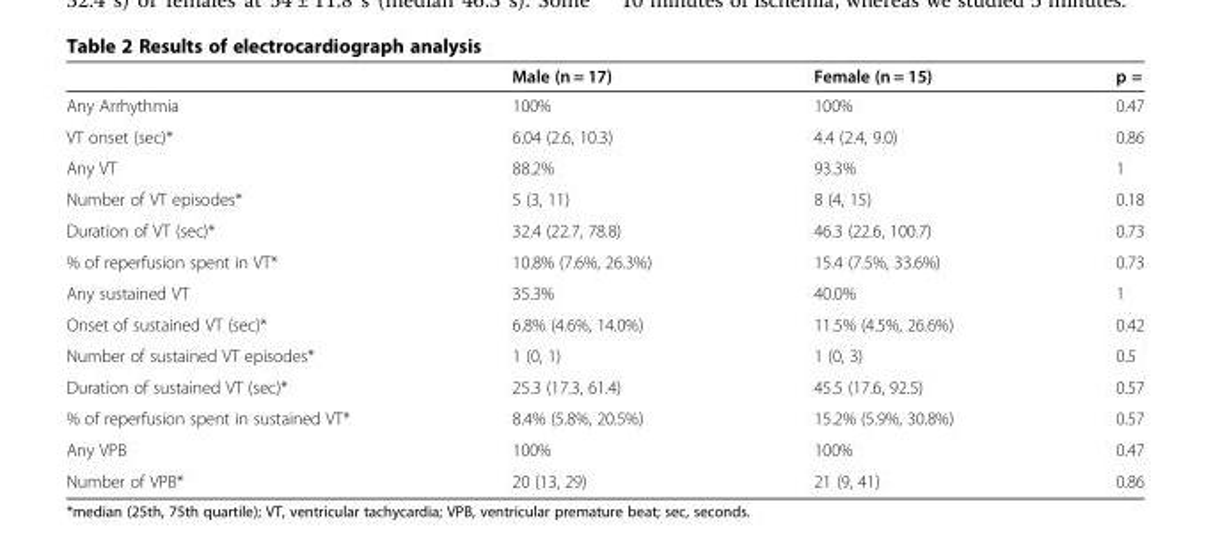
<table><thead><tr><td></td><td>Male (n = 17)</td><td>Female (n = 15)</td><td>p =</td></tr></thead><tbody><tr><td>Any Arrhythmia</td><td>100%</td><td>100%</td><td>0.47</td></tr><tr><td>VT onset (sec)*</td><td>6.04 (2.6, 10.3)</td><td>4.4 (2.4, 9.0)</td><td>0.86</td></tr><tr><td>Any VT</td><td>88.2%</td><td>93.3%</td><td>1</td></tr><tr><td>Number of VT episodes*</td><td>5 (3, 11)</td><td>8 (4, 15)</td><td>0.18</td></tr><tr><td>Duration of VT (sec)*</td><td>32.4 (22.7, 78.8)</td><td>46.3 (22.6, 100.7)</td><td>0.73</td></tr><tr><td>% of reperfusion spent in VT*</td><td>10.8% (7.6%, 26.3%)</td><td>15.4 (7.5%, 33.6%)</td><td>0.73</td></tr><tr><td>Any sustained VT</td><td>35.3%</td><td>40.0%</td><td>1</td></tr><tr><td>Onset of sustained VT (sec)*</td><td>6.8% (4.6%, 14.0%)</td><td>11.5% (4.5%, 26.6%)</td><td>0.42</td></tr><tr><td>Number of sustained VT episodes*</td><td>1 (0, 1)</td><td>1 (0, 3)</td><td>0.5</td></tr><tr><td>Duration of sustained VT (sec)*</td><td>25.3 (17.3, 61.4)</td><td>45.5 (17.6, 92.5)</td><td>0.57</td></tr><tr><td>% of reperfusion spent in sustained VT*</td><td>8.4% (5.8%, 20.5%)</td><td>15.2% (5.9%, 30.8%)</td><td>0.57</td></tr><tr><td>Any VPB</td><td>100%</td><td>100%</td><td>0.47</td></tr><tr><td>Number of VPB*</td><td>20 (13, 29)</td><td>21 (9, 41)</td><td>0.86</td></tr></tbody></table>